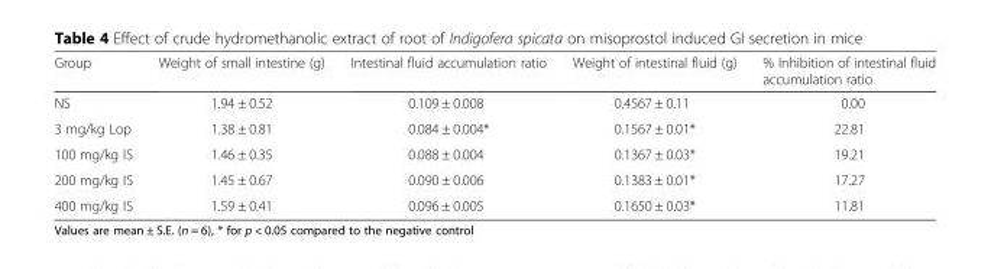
<table><thead><tr><td>Group</td><td>Weight of small intestine (g)</td><td>Intestinal fluid accumulation ratio</td><td>Weight of intestinal fluid (g)</td><td>% Inhibition of intestinal fluid accumulation ratio</td></tr></thead><tbody><tr><td>NS</td><td>1.94 ± 0.52</td><td>0.109 ± 0.008</td><td>0.4567 ± 0.11</td><td>0.00</td></tr><tr><td>3 mg/kg Lop</td><td>1.38 ± 0.81</td><td>0.084 ± 0.004*</td><td>0.1567 ± 0.01*</td><td>22.81</td></tr><tr><td>100 mg/kg IS</td><td>1.46 ± 0.35</td><td>0.088 ± 0.004</td><td>0.1367 ± 0.03*</td><td>19.21</td></tr><tr><td>200 mg/kg IS</td><td>1.45 ± 0.67</td><td>0.090 ± 0.006</td><td>0.1383 ± 0.01*</td><td>17.27</td></tr><tr><td>400 mg/kg IS</td><td>1.59 ± 0.41</td><td>0.096 ± 0.005</td><td>0.1650 ± 0.03*</td><td>11.81</td></tr></tbody></table>